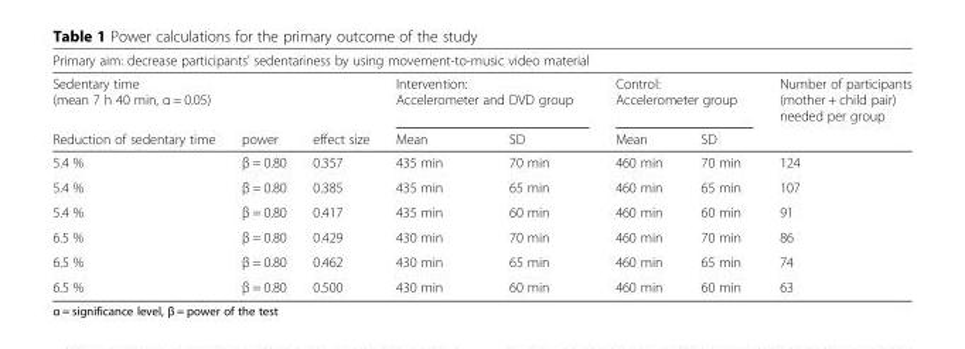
<table><thead><tr><td colspan="8">Primary aim: decrease participants’ sedentariness by using movement-to-music video material</td></tr><tr><td rowspan="2">Sedentary time (mean 7 h 40 min, α = 0.05) Reduction of sedentary time</td><td rowspan="2">power</td><td rowspan="2">effect size</td><td colspan="2">Intervention: Accelerometer and DVD group</td><td colspan="2">Control: Accelerometer group</td><td rowspan="2">Number of participants (mother + child pair) needed per group</td></tr><tr><td>Mean</td><td>SD</td><td>Mean</td><td>SD</td></tr></thead><tbody><tr><td>5.4 %</td><td>β = 0.80</td><td>0.357</td><td>435 min</td><td>70 min</td><td>460 min</td><td>70 min</td><td>124</td></tr><tr><td>5.4 %</td><td>β = 0.80</td><td>0.385</td><td>435 min</td><td>65 min</td><td>460 min</td><td>65 min</td><td>107</td></tr><tr><td>5.4 %</td><td>β = 0.80</td><td>0.417</td><td>435 min</td><td>60 min</td><td>460 min</td><td>60 min</td><td>91</td></tr><tr><td>6.5 %</td><td>β = 0.80</td><td>0.429</td><td>430 min</td><td>70 min</td><td>460 min</td><td>70 min</td><td>86</td></tr><tr><td>6.5 %</td><td>β = 0.80</td><td>0.462</td><td>430 min</td><td>65 min</td><td>460 min</td><td>65 min</td><td>74</td></tr><tr><td>6.5 %</td><td>β = 0.80</td><td>0.500</td><td>430 min</td><td>60 min</td><td>460 min</td><td>60 min</td><td>63</td></tr></tbody></table>